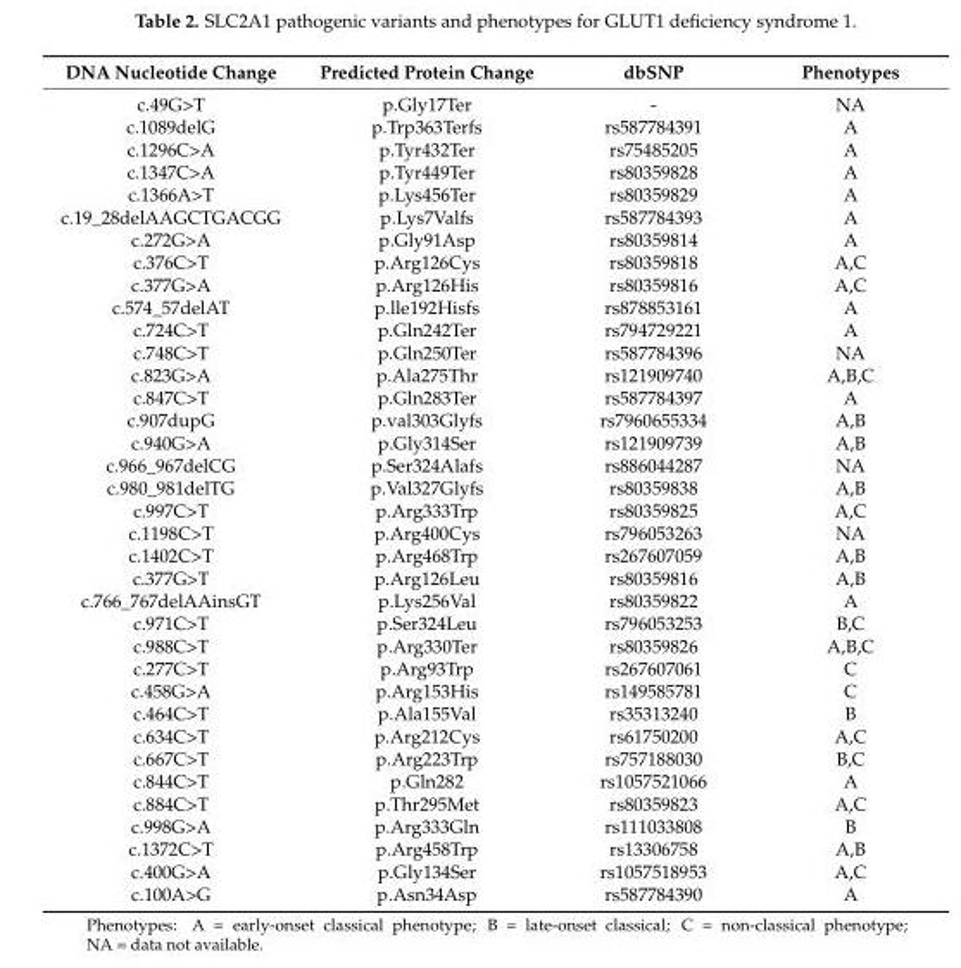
<table><thead><tr><td>DNA Nucleotide Change</td><td>Predicted Protein Change</td><td>dbSNP</td><td>Phenotypes</td></tr></thead><tbody><tr><td>c.49G&gt;T</td><td>p.Gly17Ter</td><td>-</td><td>NA</td></tr><tr><td>c.1089delG</td><td>p.Trp363Terfs</td><td>rs587784391</td><td>A</td></tr><tr><td>c.1296C&gt;A</td><td>p.Tyr432Ter</td><td>rs75485205</td><td>A</td></tr><tr><td>c.1347C&gt;A</td><td>p.Tyr449Ter</td><td>rs80359828</td><td>A</td></tr><tr><td>c.1366A&gt;T</td><td>p.Lys456Ter</td><td>rs80359829</td><td>A</td></tr><tr><td>c.19_28delAAGCTGACGG</td><td>p.Lys7Valfs</td><td>rs587784393</td><td>A</td></tr><tr><td>c.272G&gt;A</td><td>p.Gly91Asp</td><td>rs80359814</td><td>A</td></tr><tr><td>c.376C&gt;T</td><td>p.Arg126Cys</td><td>rs80359818</td><td>A,C</td></tr><tr><td>c.377G&gt;A</td><td>p.Arg126His</td><td>rs80359816</td><td>A,C</td></tr><tr><td>c.574_57delAT</td><td>p.lle192Hisfs</td><td>rs878853161</td><td>A</td></tr><tr><td>c.724C&gt;T</td><td>p.Gln242Ter</td><td>rs794729221</td><td>A</td></tr><tr><td>c.748C&gt;T</td><td>p.Gln250Ter</td><td>rs587784396</td><td>NA</td></tr><tr><td>c.823G&gt;A</td><td>p.Ala275Thr</td><td>rs121909740</td><td>A,B,C</td></tr><tr><td>c.847C&gt;T</td><td>p.Gln283Ter</td><td>rs587784397</td><td>A</td></tr><tr><td>c.907dupG</td><td>p.val303Glyfs</td><td>rs7960655334</td><td>A,B</td></tr><tr><td>c.940G&gt;A</td><td>p.Gly314Ser</td><td>rs121909739</td><td>A,B</td></tr><tr><td>c.966_967delCG</td><td>p.Ser324Alafs</td><td>rs886044287</td><td>NA</td></tr><tr><td>c.980_981delTG</td><td>p.Val327Glyfs</td><td>rs80359838</td><td>A,B</td></tr><tr><td>c.997C&gt;T</td><td>p.Arg333Trp</td><td>rs80359825</td><td>A,C</td></tr><tr><td>c.1198C&gt;T</td><td>p.Arg400Cys</td><td>rs796053263</td><td>NA</td></tr><tr><td>c.1402C&gt;T</td><td>p.Arg468Trp</td><td>rs267607059</td><td>A,B</td></tr><tr><td>c.377G&gt;T</td><td>p.Arg126Leu</td><td>rs80359816</td><td>A,B</td></tr><tr><td>c.766_767delAAinsGT</td><td>p.Lys256Val</td><td>rs80359822</td><td>A</td></tr><tr><td>c.971C&gt;T</td><td>p.Ser324Leu</td><td>rs796053253</td><td>B,C</td></tr><tr><td>c.988C&gt;T</td><td>p.Arg330Ter</td><td>rs80359826</td><td>A,B,C</td></tr><tr><td>c.277C&gt;T</td><td>p.Arg93Trp</td><td>rs267607061</td><td>C</td></tr><tr><td>c.458G&gt;A</td><td>p.Arg153His</td><td>rs149585781</td><td>C</td></tr><tr><td>c.464C&gt;T</td><td>p.Ala155Val</td><td>rs35313240</td><td>B</td></tr><tr><td>c.634C&gt;T</td><td>p.Arg212Cys</td><td>rs61750200</td><td>A,C</td></tr><tr><td>c.667C&gt;T</td><td>p.Arg223Trp</td><td>rs757188030</td><td>B,C</td></tr><tr><td>c.844C&gt;T</td><td>p.Gln282</td><td>rs1057521066</td><td>A</td></tr><tr><td>c.884C&gt;T</td><td>p.Thr295Met</td><td>rs80359823</td><td>A,C</td></tr><tr><td>c.998G&gt;A</td><td>p.Arg333Gln</td><td>rs111033808</td><td>B</td></tr><tr><td>c.1372C&gt;T</td><td>p.Arg458Trp</td><td>rs13306758</td><td>A,B</td></tr><tr><td>c.400G&gt;A</td><td>p.Gly134Ser</td><td>rs1057518953</td><td>A,C</td></tr><tr><td>c.100A&gt;G</td><td>p.Asn34Asp</td><td>rs587784390</td><td>A</td></tr></tbody></table>